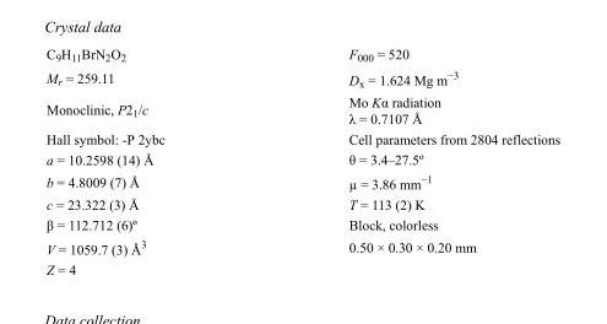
<table><tbody><tr><td>C<sub>9</sub>H<sub>11</sub>BrN<sub>2</sub>O<sub>2</sub></td><td>F000 = 520</td></tr><tr><td>M<sub>r</sub> = 259.11</td><td>D<sub>x</sub> = 1.624 Mg m<sup>−3</sup></td></tr><tr><td>Monoclinic, P2<sub>1</sub>/c</td><td>Mo Kα radiation λ = 0.7107 Å</td></tr><tr><td>Hall symbol: -P 2ybc</td><td>Cell parameters from 2804 reflections</td></tr><tr><td>a = 10.2598 (14) Å</td><td>θ = 3.4–27.5º</td></tr><tr><td>b = 4.8009 (7) Å</td><td>µ = 3.86 mm<sup>−1</sup></td></tr><tr><td>c = 23.322 (3) Å</td><td>T = 113 (2) K</td></tr><tr><td>β = 112.712 (6)º</td><td>Block, colorless</td></tr><tr><td>V = 1059.7 (3) Å<sup>3</sup></td><td>0.50 × 0.30 × 0.20 mm</td></tr><tr><td>Z = 4</td><td></td></tr></tbody></table>